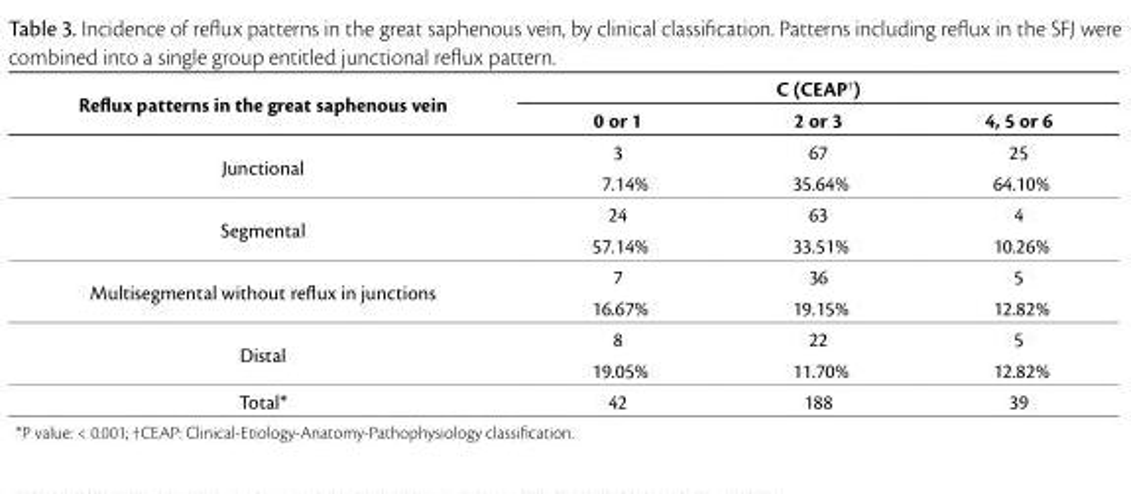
<table><thead><tr><td rowspan="2">Reflux patterns in the great saphenous vein</td><td colspan="3">C (CEAP†)</td></tr><tr><td>0 or 1</td><td>2 or 3</td><td>4, 5 or 6</td></tr></thead><tbody><tr><td rowspan="2">Junctional</td><td>3</td><td>67</td><td>25</td></tr><tr><td>7.14%</td><td>35.64%</td><td>64.10%</td></tr><tr><td rowspan="2">Segmental</td><td>24</td><td>63</td><td>4</td></tr><tr><td>57.14%</td><td>33.51%</td><td>10.26%</td></tr><tr><td rowspan="2">Multisegmental without reflux in junctions</td><td>7</td><td>36</td><td>5</td></tr><tr><td>16.67%</td><td>19.15%</td><td>12.82%</td></tr><tr><td rowspan="2">Distal</td><td>8</td><td>22</td><td>5</td></tr><tr><td>19.05%</td><td>11.70%</td><td>12.82%</td></tr><tr><td>Total*</td><td>42</td><td>188</td><td>39</td></tr></tbody></table>